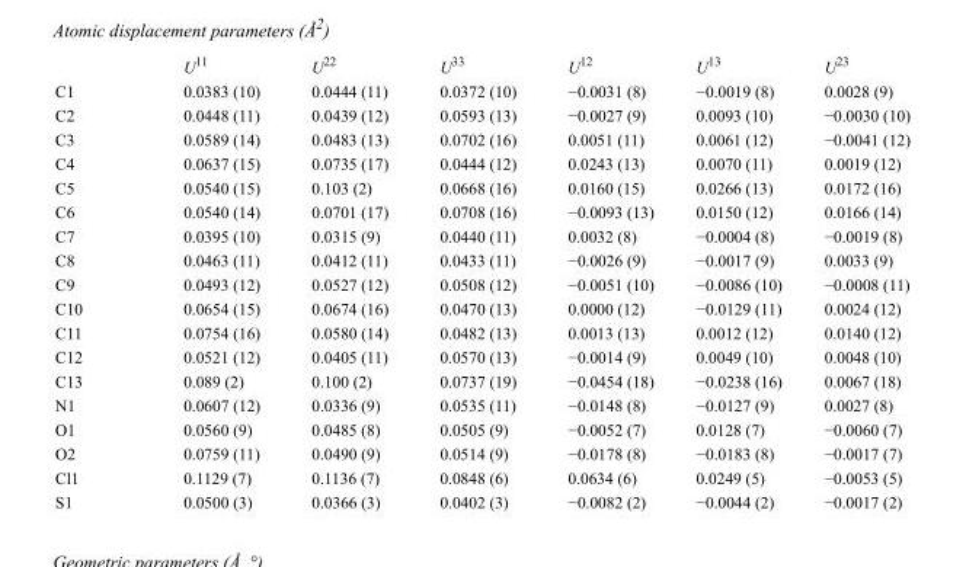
<table><thead><tr><td></td><td>U<sup>11</sup></td><td>U<sup>22</sup></td><td>U<sup>33</sup></td><td>U<sup>12</sup></td><td>U<sup>13</sup></td><td>U<sup>23</sup></td></tr></thead><tbody><tr><td>C1</td><td>0.0383 (10)</td><td>0.0444 (11)</td><td>0.0372 (10)</td><td>−0.0031 (8)</td><td>−0.0019 (8)</td><td>0.0028 (9)</td></tr><tr><td>C2</td><td>0.0448 (11)</td><td>0.0439 (12)</td><td>0.0593 (13)</td><td>−0.0027 (9)</td><td>0.0093 (10)</td><td>−0.0030 (10)</td></tr><tr><td>C3</td><td>0.0589 (14)</td><td>0.0483 (13)</td><td>0.0702 (16)</td><td>0.0051 (11)</td><td>0.0061 (12)</td><td>−0.0041 (12)</td></tr><tr><td>C4</td><td>0.0637 (15)</td><td>0.0735 (17)</td><td>0.0444 (12)</td><td>0.0243 (13)</td><td>0.0070 (11)</td><td>0.0019 (12)</td></tr><tr><td>C5</td><td>0.0540 (15)</td><td>0.103 (2)</td><td>0.0668 (16)</td><td>0.0160 (15)</td><td>0.0266 (13)</td><td>0.0172 (16)</td></tr><tr><td>C6</td><td>0.0540 (14)</td><td>0.0701 (17)</td><td>0.0708 (16)</td><td>−0.0093 (13)</td><td>0.0150 (12)</td><td>0.0166 (14)</td></tr><tr><td>C7</td><td>0.0395 (10)</td><td>0.0315 (9)</td><td>0.0440 (11)</td><td>0.0032 (8)</td><td>−0.0004 (8)</td><td>−0.0019 (8)</td></tr><tr><td>C8</td><td>0.0463 (11)</td><td>0.0412 (11)</td><td>0.0433 (11)</td><td>−0.0026 (9)</td><td>−0.0017 (9)</td><td>0.0033 (9)</td></tr><tr><td>C9</td><td>0.0493 (12)</td><td>0.0527 (12)</td><td>0.0508 (12)</td><td>−0.0051 (10)</td><td>−0.0086 (10)</td><td>−0.0008 (11)</td></tr><tr><td>C10</td><td>0.0654 (15)</td><td>0.0674 (16)</td><td>0.0470 (13)</td><td>0.0000 (12)</td><td>−0.0129 (11)</td><td>0.0024 (12)</td></tr><tr><td>C11</td><td>0.0754 (16)</td><td>0.0580 (14)</td><td>0.0482 (13)</td><td>0.0013 (13)</td><td>0.0012 (12)</td><td>0.0140 (12)</td></tr><tr><td>C12</td><td>0.0521 (12)</td><td>0.0405 (11)</td><td>0.0570 (13)</td><td>−0.0014 (9)</td><td>0.0049 (10)</td><td>0.0048 (10)</td></tr><tr><td>C13</td><td>0.089 (2)</td><td>0.100 (2)</td><td>0.0737 (19)</td><td>−0.0454 (18)</td><td>−0.0238 (16)</td><td>0.0067 (18)</td></tr><tr><td>N1</td><td>0.0607 (12)</td><td>0.0336 (9)</td><td>0.0535 (11)</td><td>−0.0148 (8)</td><td>−0.0127 (9)</td><td>0.0027 (8)</td></tr><tr><td>O1</td><td>0.0560 (9)</td><td>0.0485 (8)</td><td>0.0505 (9)</td><td>−0.0052 (7)</td><td>0.0128 (7)</td><td>−0.0060 (7)</td></tr><tr><td>O2</td><td>0.0759 (11)</td><td>0.0490 (9)</td><td>0.0514 (9)</td><td>−0.0178 (8)</td><td>−0.0183 (8)</td><td>−0.0017 (7)</td></tr><tr><td>Cl1</td><td>0.1129 (7)</td><td>0.1136 (7)</td><td>0.0848 (6)</td><td>0.0634 (6)</td><td>0.0249 (5)</td><td>−0.0053 (5)</td></tr><tr><td>S1</td><td>0.0500 (3)</td><td>0.0366 (3)</td><td>0.0402 (3)</td><td>−0.0082 (2)</td><td>−0.0044 (2)</td><td>−0.0017 (2)</td></tr></tbody></table>